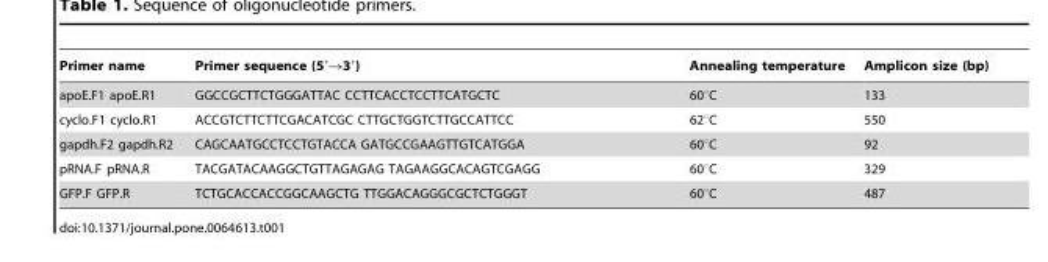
<table><thead><tr><td>Primer name</td><td>Primer sequence (5′→3′)</td><td>Annealing temperature</td><td>Amplicon size (bp)</td></tr></thead><tbody><tr><td>apoE.F1 apoE.R1</td><td>GGCCGCTTCTGGGATTAC CCTTCACCTCCTTCATGCTC</td><td>60°C</td><td>133</td></tr><tr><td>cyclo.F1 cyclo.R1</td><td>ACCGTCTTCTTCGACATCGC CTTGCTGGTCTTGCCATTCC</td><td>62°C</td><td>550</td></tr><tr><td>gapdh.F2 gapdh.R2</td><td>CAGCAATGCCTCCTGTACCA GATGCCGAAGTTGTCATGGA</td><td>60°C</td><td>92</td></tr><tr><td>pRNA.F pRNA.R</td><td>TACGATACAAGGCTGTTAGAGAG TAGAAGGCACAGTCGAGG</td><td>60°C</td><td>329</td></tr><tr><td>GFP.F GFP.R</td><td>TCTGCACCACCGGCAAGCTG TTGGACAGGGCGCTCTGGGT</td><td>60°C</td><td>487</td></tr></tbody></table>